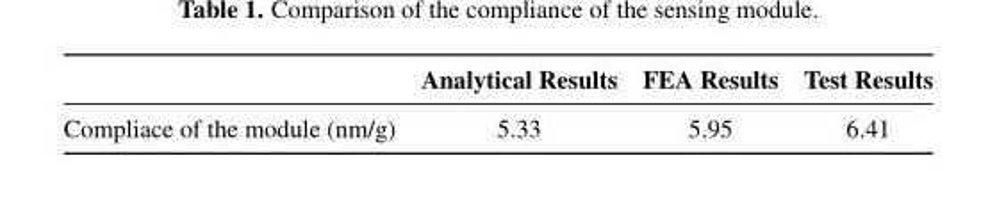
<table><thead><tr><td></td><td>Analytical Results</td><td>FEA Results</td><td>Test Results</td></tr></thead><tbody><tr><td>Compliace of the module (nm/g)</td><td>5.33</td><td>5.95</td><td>6.41</td></tr></tbody></table>